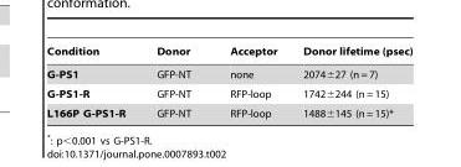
<table><thead><tr><td>Condition</td><td>Donor</td><td>Acceptor</td><td>Donor lifetime (psec)</td></tr></thead><tbody><tr><td>G-PS1</td><td>GFP-NT</td><td>none</td><td>2074±27 (n = 7)</td></tr><tr><td>G-PS1-R</td><td>GFP-NT</td><td>RFP-loop</td><td>1742±244 (n = 15)</td></tr><tr><td>L166P G-PS1-R</td><td>GFP-NT</td><td>RFP-loop</td><td>1488±145 (n = 15)*</td></tr></tbody></table>